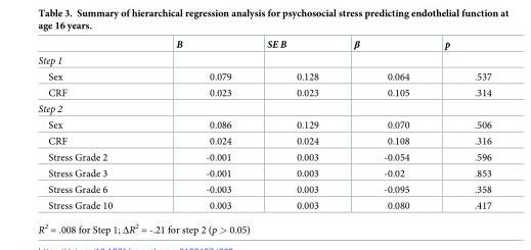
<table><thead><tr><td></td><td>B</td><td>SE B</td><td>β</td><td>p</td></tr></thead><tbody><tr><td colspan="5">Step 1</td></tr><tr><td>Sex</td><td>0.079</td><td>0.128</td><td>0.064</td><td>.537</td></tr><tr><td>CRF</td><td>0.023</td><td>0.023</td><td>0.105</td><td>.314</td></tr><tr><td colspan="5">Step 2</td></tr><tr><td>Sex</td><td>0.086</td><td>0.129</td><td>0.070</td><td>.506</td></tr><tr><td>CRF</td><td>0.024</td><td>0.024</td><td>0.108</td><td>.316</td></tr><tr><td>Stress Grade 2</td><td>-0.001</td><td>0.003</td><td>-0.054</td><td>.596</td></tr><tr><td>Stress Grade 3</td><td>-0.001</td><td>0.003</td><td>-0.02</td><td>.853</td></tr><tr><td>Stress Grade 6</td><td>-0.003</td><td>0.003</td><td>-0.095</td><td>.358</td></tr><tr><td>Stress Grade 10</td><td>0.003</td><td>0.003</td><td>0.080</td><td>.417</td></tr></tbody></table>